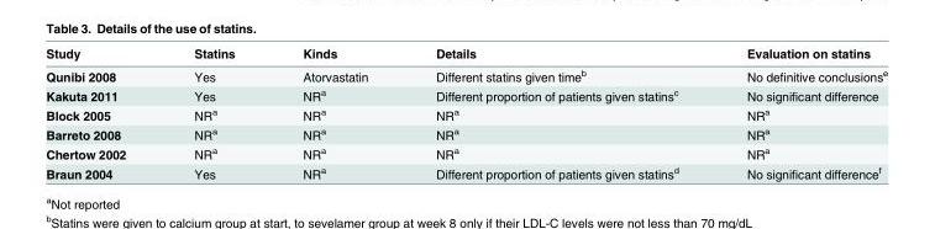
<table><thead><tr><td>Study</td><td>Statins</td><td>Kinds</td><td>Details</td><td>Evaluation on statins</td></tr></thead><tbody><tr><td>Qunibi 2008</td><td>Yes</td><td>Atorvastatin</td><td>Different statins given time<sup>b</sup></td><td>No definitive conclusions<sup>e</sup></td></tr><tr><td>Kakuta 2011</td><td>Yes</td><td>NR<sup>a</sup></td><td>Different proportion of patients given statins<sup>c</sup></td><td>No significant difference</td></tr><tr><td>Block 2005</td><td>NR<sup>a</sup></td><td>NR<sup>a</sup></td><td>NR<sup>a</sup></td><td>NR<sup>a</sup></td></tr><tr><td>Barreto 2008</td><td>NR<sup>a</sup></td><td>NR<sup>a</sup></td><td>NR<sup>a</sup></td><td>NR<sup>a</sup></td></tr><tr><td>Chertow 2002</td><td>NR<sup>a</sup></td><td>NR<sup>a</sup></td><td>NR<sup>a</sup></td><td>NR<sup>a</sup></td></tr><tr><td>Braun 2004</td><td>Yes</td><td>NR<sup>a</sup></td><td>Different proportion of patients given statins<sup>d</sup></td><td>No significant difference<sup>f</sup></td></tr></tbody></table>